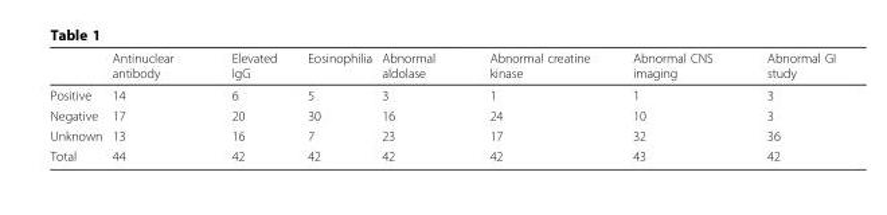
<table><thead><tr><td></td><td>Antinuclear antibody</td><td>Elevated IgG</td><td>Eosinophilia</td><td>Abnormal aldolase</td><td>Abnormal creatine kinase</td><td>Abnormal CNS imaging</td><td>Abnormal GI study</td></tr></thead><tbody><tr><td>Positive</td><td>14</td><td>6</td><td>5</td><td>3</td><td>1</td><td>1</td><td>3</td></tr><tr><td>Negative</td><td>17</td><td>20</td><td>30</td><td>16</td><td>24</td><td>10</td><td>3</td></tr><tr><td>Unknown</td><td>13</td><td>16</td><td>7</td><td>23</td><td>17</td><td>32</td><td>36</td></tr><tr><td>Total</td><td>44</td><td>42</td><td>42</td><td>42</td><td>42</td><td>43</td><td>42</td></tr></tbody></table>